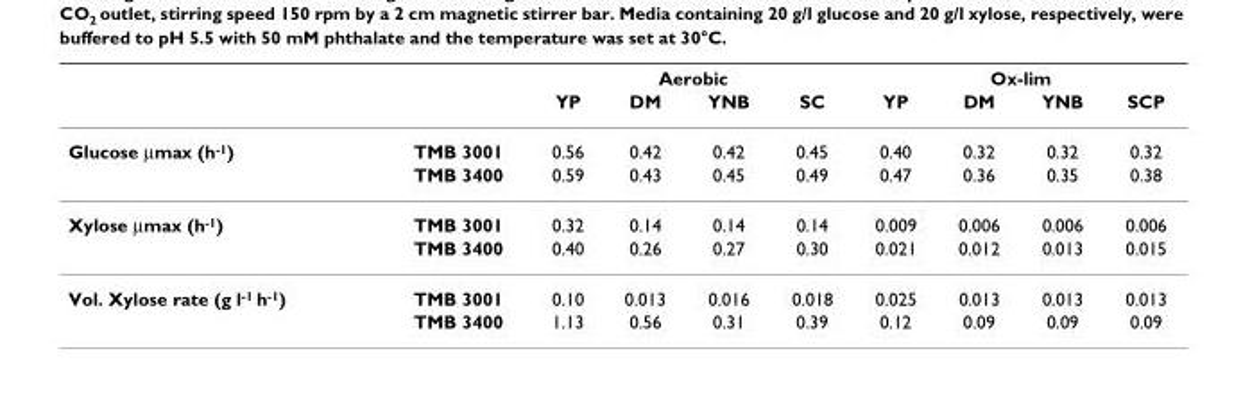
<table><thead><tr><td rowspan="2"></td><td rowspan="2"></td><td colspan="4">Aerobic</td><td colspan="4">Ox-lim</td></tr><tr><td>YP</td><td>DM</td><td>YNB</td><td>SC</td><td>YP</td><td>DM</td><td>YNB</td><td>SCP</td></tr></thead><tbody><tr><td rowspan="2">Glucose µmax (h-1)</td><td>TMB 3001</td><td>0.56</td><td>0.42</td><td>0.42</td><td>0.45</td><td>0.40</td><td>0.32</td><td>0.32</td><td>0.32</td></tr><tr><td>TMB 3400</td><td>0.59</td><td>0.43</td><td>0.45</td><td>0.49</td><td>0.47</td><td>0.36</td><td>0.35</td><td>0.38</td></tr><tr><td rowspan="2">Xylose µmax (h-1)</td><td>TMB 3001</td><td>0.32</td><td>0.14</td><td>0.14</td><td>0.14</td><td>0.009</td><td>0.006</td><td>0.006</td><td>0.006</td></tr><tr><td>TMB 3400</td><td>0.40</td><td>0.26</td><td>0.27</td><td>0.30</td><td>0.021</td><td>0.012</td><td>0.013</td><td>0.015</td></tr><tr><td rowspan="2">Vol. Xylose rate (g l-1 h-1)</td><td>TMB 3001</td><td>0.10</td><td>0.013</td><td>0.016</td><td>0.018</td><td>0.025</td><td>0.013</td><td>0.013</td><td>0.013</td></tr><tr><td>TMB 3400</td><td>1.13</td><td>0.56</td><td>0.31</td><td>0.39</td><td>0.12</td><td>0.09</td><td>0.09</td><td>0.09</td></tr></tbody></table>